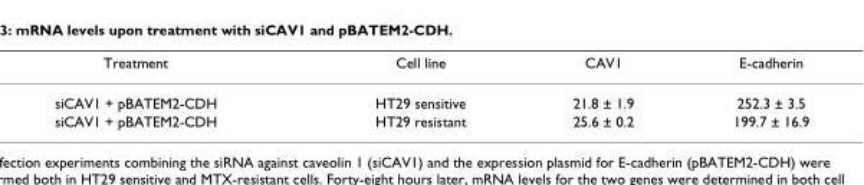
<table><thead><tr><td>Treatment</td><td>Cell line</td><td>CAV1</td><td>E-cadherin</td></tr></thead><tbody><tr><td>siCAV1 + pBATEM2-CDH</td><td>HT29 sensitive</td><td>21.8 ± 1.9</td><td>252.3 ± 3.5</td></tr><tr><td>siCAV1 + pBATEM2-CDH</td><td>HT29 resistant</td><td>25.6 ± 0.2</td><td>199.7 ± 16.9</td></tr></tbody></table>